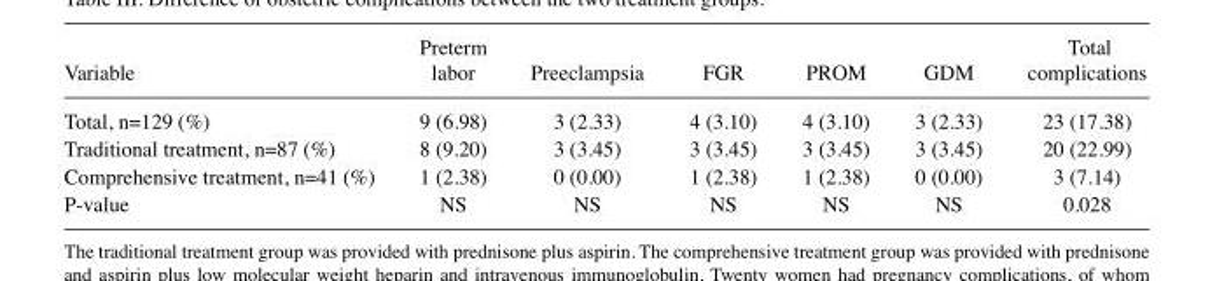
<table><thead><tr><td>Variable</td><td>labor</td><td>Preeclampsia</td><td>FGR</td><td>PROM</td><td>GDM</td><td>complications</td></tr></thead><tbody><tr><td>Total, n=129 (%)</td><td>9 (6.98)</td><td>3 (2.33)</td><td>4 (3.10)</td><td>4 (3.10)</td><td>3 (2.33)</td><td>23 (17.38)</td></tr><tr><td>Traditional treatment, n=87 (%)</td><td>8 (9.20)</td><td>3 (3.45)</td><td>3 (3.45)</td><td>3 (3.45)</td><td>3 (3.45)</td><td>20 (22.99)</td></tr><tr><td>Comprehensive treatment, n=41 (%)</td><td>1 (2.38)</td><td>0 (0.00)</td><td>1 (2.38)</td><td>1 (2.38)</td><td>0 (0.00)</td><td>3 (7.14)</td></tr><tr><td>P-value</td><td>NS</td><td>NS</td><td>NS</td><td>NS</td><td>NS</td><td>0.028</td></tr></tbody></table>